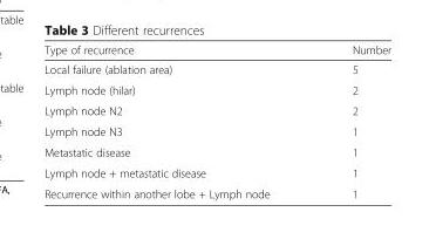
<table><thead><tr><td>Type of recurrence</td><td>Number</td></tr></thead><tbody><tr><td>Local failure (ablation area)</td><td>5</td></tr><tr><td>Lymph node (hilar)</td><td>2</td></tr><tr><td>Lymph node N2</td><td>2</td></tr><tr><td>Lymph node N3</td><td>1</td></tr><tr><td>Metastatic disease</td><td>1</td></tr><tr><td>Lymph node + metastatic disease</td><td>1</td></tr><tr><td>Recurrence within another lobe + Lymph node</td><td>1</td></tr></tbody></table>